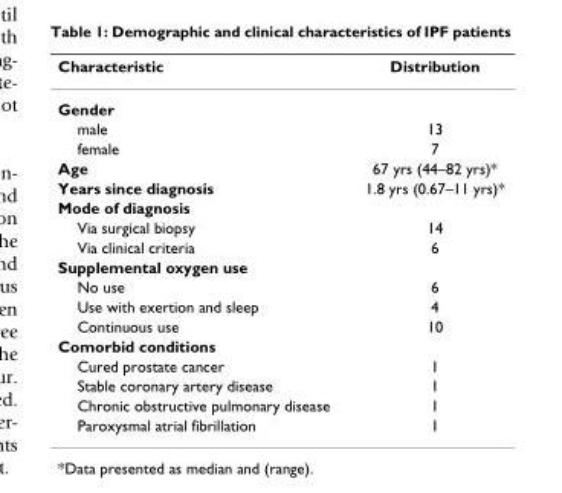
<table><thead><tr><td>Characteristic</td><td>Distribution</td></tr></thead><tbody><tr><td colspan="2">Gender</td></tr><tr><td>male</td><td>13</td></tr><tr><td>female</td><td>7</td></tr><tr><td>Age</td><td>67 yrs (44–82 yrs)*</td></tr><tr><td>Years since diagnosis</td><td>1.8 yrs (0.67–11 yrs)*</td></tr><tr><td colspan="2">Mode of diagnosis</td></tr><tr><td>Via surgical biopsy</td><td>14</td></tr><tr><td>Via clinical criteria</td><td>6</td></tr><tr><td colspan="2">Supplemental oxygen use</td></tr><tr><td>No use</td><td>6</td></tr><tr><td>Use with exertion and sleep</td><td>4</td></tr><tr><td>Continuous use</td><td>10</td></tr><tr><td colspan="2">Comorbid conditions</td></tr><tr><td>Cured prostate cancer</td><td>1</td></tr><tr><td>Stable coronary artery disease</td><td>1</td></tr><tr><td>Chronic obstructive pulmonary disease</td><td>1</td></tr><tr><td>Paroxysmal atrial fibrillation</td><td>1</td></tr></tbody></table>